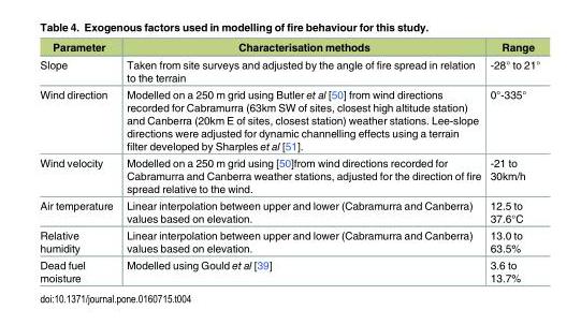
<table><thead><tr><td>Parameter</td><td>Characterisation methods</td><td>Range</td></tr></thead><tbody><tr><td>Slope</td><td>Taken from site surveys and adjusted by the angle of fire spread in relation to the terrain</td><td>-28° to 21°</td></tr><tr><td>Wind direction</td><td>Modelled on a 250 m grid using Butler et al [50] from wind directions recorded for Cabramurra (63km SW of sites, closest high altitude station) and Canberra (20km E of sites, closest station) weather stations. Lee-slope directions were adjusted for dynamic channelling effects using a terrain filter developed by Sharples et al [51].</td><td>0°-335°</td></tr><tr><td>Wind velocity</td><td>Modelled on a 250 m grid using [50]from wind directions recorded for Cabramurra and Canberra weather stations, adjusted for the direction of fire spread relative to the wind.</td><td>-21 to 30km/h</td></tr><tr><td>Air temperature</td><td>Linear interpolation between upper and lower (Cabramurra and Canberra) values based on elevation.</td><td>12.5 to 37.6°C</td></tr><tr><td>Relative humidity</td><td>Linear interpolation between upper and lower (Cabramurra and Canberra) values based on elevation.</td><td>13.0 to 63.5%</td></tr><tr><td>Dead fuel moisture</td><td>Modelled using Gould et al [39]</td><td>3.6 to 13.7%</td></tr></tbody></table>